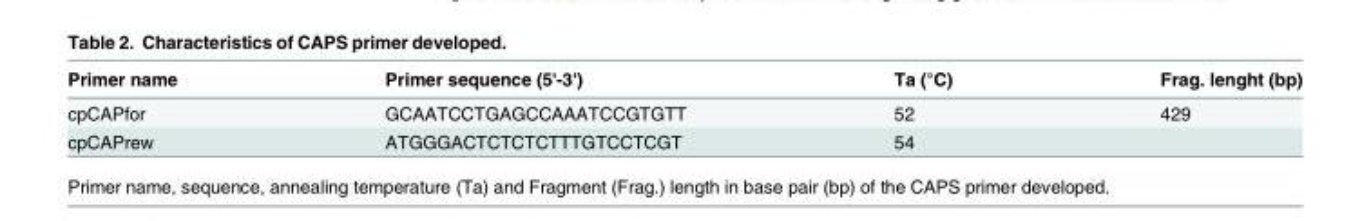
<table><thead><tr><td>Primer name</td><td>Primer sequence (5&#x27;-3&#x27;)</td><td>Ta (°C)</td><td>Frag. lenght (bp)</td></tr></thead><tbody><tr><td>cpCAPfor</td><td>GCAATCCTGAGCCAAATCCGTGTT</td><td>52</td><td>429</td></tr><tr><td>cpCAPrew</td><td>ATGGGACTCTCTCTTTGTCCTCGT</td><td>54</td><td></td></tr></tbody></table>